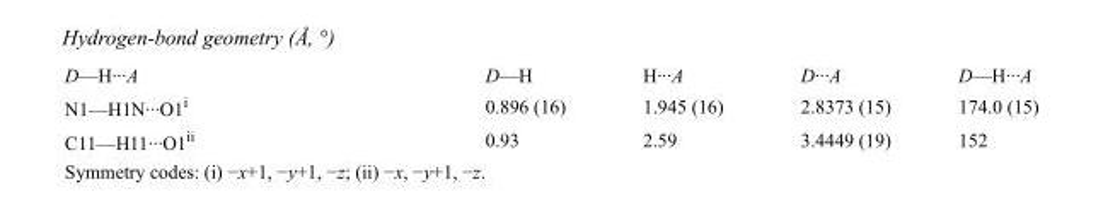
<table><tbody><tr><td>D—H···A</td><td>D—H</td><td>H···A</td><td>D···A</td><td>D—H···A</td></tr><tr><td>N1—H1N···O1<sup>i</sup></td><td>0.896 (16)</td><td>1.945 (16)</td><td>2.8373 (15)</td><td>174.0 (15)</td></tr><tr><td>C11—H11···O1<sup>ii</sup></td><td>0.93</td><td>2.59</td><td>3.4449 (19)</td><td>152</td></tr></tbody></table>